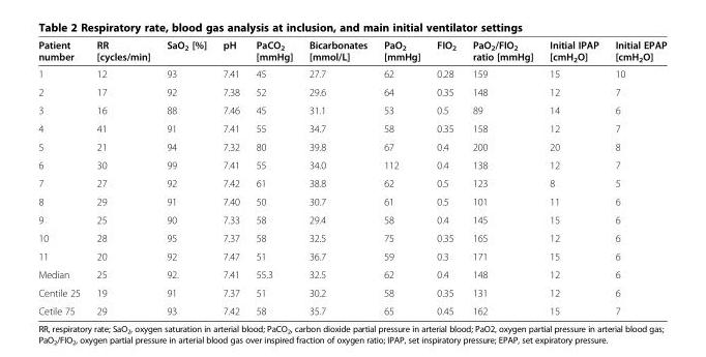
<table><thead><tr><td>Patient number</td><td>RR [cycles/min]</td><td>SaO<sub>2</sub> [%]</td><td>pH</td><td>PaCO<sub>2</sub> [mmHg]</td><td>Bicarbonates [mmol/L]</td><td>PaO<sub>2</sub> [mmHg]</td><td>FIO<sub>2</sub></td><td>PaO<sub>2</sub>/FIO<sub>2</sub> ratio [mmHg]</td><td>Initial IPAP [cmH<sub>2</sub>O]</td><td>Initial EPAP [cmH<sub>2</sub>O]</td></tr></thead><tbody><tr><td>1</td><td>12</td><td>93</td><td>7.41</td><td>45</td><td>27.7</td><td>62</td><td>0.28</td><td>159</td><td>15</td><td>10</td></tr><tr><td>2</td><td>17</td><td>92</td><td>7.38</td><td>52</td><td>29.6</td><td>64</td><td>0.35</td><td>148</td><td>12</td><td>7</td></tr><tr><td>3</td><td>16</td><td>88</td><td>7.46</td><td>45</td><td>31.1</td><td>53</td><td>0.5</td><td>89</td><td>14</td><td>6</td></tr><tr><td>4</td><td>41</td><td>91</td><td>7.41</td><td>55</td><td>34.7</td><td>58</td><td>0.35</td><td>158</td><td>12</td><td>7</td></tr><tr><td>5</td><td>21</td><td>94</td><td>7.32</td><td>80</td><td>39.8</td><td>67</td><td>0.4</td><td>200</td><td>20</td><td>8</td></tr><tr><td>6</td><td>30</td><td>99</td><td>7.41</td><td>55</td><td>34.0</td><td>112</td><td>0.4</td><td>138</td><td>12</td><td>7</td></tr><tr><td>7</td><td>27</td><td>92</td><td>7.42</td><td>61</td><td>38.8</td><td>62</td><td>0.5</td><td>123</td><td>8</td><td>5</td></tr><tr><td>8</td><td>29</td><td>91</td><td>7.40</td><td>50</td><td>30.7</td><td>61</td><td>0.5</td><td>101</td><td>11</td><td>6</td></tr><tr><td>9</td><td>25</td><td>90</td><td>7.33</td><td>58</td><td>29.4</td><td>58</td><td>0.4</td><td>145</td><td>15</td><td>6</td></tr><tr><td>10</td><td>28</td><td>95</td><td>7.37</td><td>58</td><td>32.5</td><td>75</td><td>0.35</td><td>165</td><td>12</td><td>6</td></tr><tr><td>11</td><td>20</td><td>92</td><td>7.47</td><td>51</td><td>36.7</td><td>59</td><td>0.3</td><td>171</td><td>15</td><td>6</td></tr><tr><td>Median</td><td>25</td><td>92.</td><td>7.41</td><td>55.3</td><td>32.5</td><td>62</td><td>0.4</td><td>148</td><td>12</td><td>6</td></tr><tr><td>Centile 25</td><td>19</td><td>91</td><td>7.37</td><td>51</td><td>30.2</td><td>58</td><td>0.35</td><td>131</td><td>12</td><td>6</td></tr><tr><td>Cetile 75</td><td>29</td><td>93</td><td>7.42</td><td>58</td><td>35.7</td><td>65</td><td>0.45</td><td>162</td><td>15</td><td>7</td></tr></tbody></table>